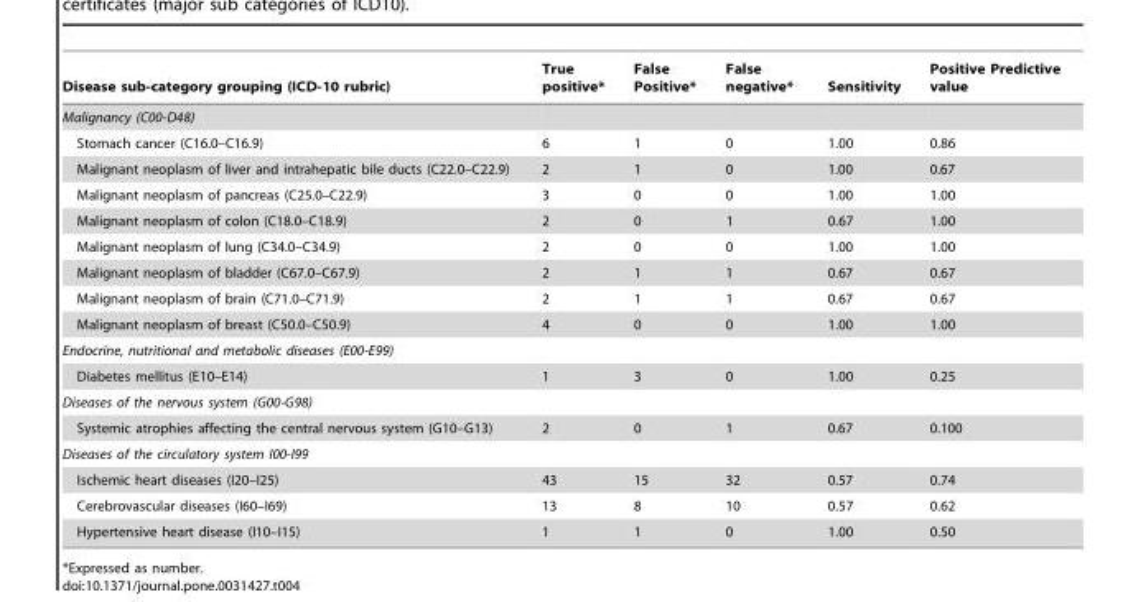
<table><thead><tr><td>Disease sub-category grouping (ICD-10 rubric)</td><td>True positive*</td><td>False Positive*</td><td>False negative*</td><td>Sensitivity</td><td>Positive Predictive value</td></tr></thead><tbody><tr><td colspan="6">Malignancy (C00-D48)</td></tr><tr><td>Stomach cancer (C16.0–C16.9)</td><td>6</td><td>1</td><td>0</td><td>1.00</td><td>0.86</td></tr><tr><td>Malignant neoplasm of liver and intrahepatic bile ducts (C22.0–C22.9)</td><td>2</td><td>1</td><td>0</td><td>1.00</td><td>0.67</td></tr><tr><td>Malignant neoplasm of pancreas (C25.0–C22.9)</td><td>3</td><td>0</td><td>0</td><td>1.00</td><td>1.00</td></tr><tr><td>Malignant neoplasm of colon (C18.0–C18.9)</td><td>2</td><td>0</td><td>1</td><td>0.67</td><td>1.00</td></tr><tr><td>Malignant neoplasm of lung (C34.0–C34.9)</td><td>2</td><td>0</td><td>0</td><td>1.00</td><td>1.00</td></tr><tr><td>Malignant neoplasm of bladder (C67.0–C67.9)</td><td>2</td><td>1</td><td>1</td><td>0.67</td><td>0.67</td></tr><tr><td>Malignant neoplasm of brain (C71.0–C71.9)</td><td>2</td><td>1</td><td>1</td><td>0.67</td><td>0.67</td></tr><tr><td>Malignant neoplasm of breast (C50.0–C50.9)</td><td>4</td><td>0</td><td>0</td><td>1.00</td><td>1.00</td></tr><tr><td colspan="6">Endocrine, nutritional and metabolic diseases (E00-E99)</td></tr><tr><td>Diabetes mellitus (E10–E14)</td><td>1</td><td>3</td><td>0</td><td>1.00</td><td>0.25</td></tr><tr><td colspan="6">Diseases of the nervous system (G00-G98)</td></tr><tr><td>Systemic atrophies affecting the central nervous system (G10–G13)</td><td>2</td><td>0</td><td>1</td><td>0.67</td><td>0.100</td></tr><tr><td colspan="6">Diseases of the circulatory system I00-I99</td></tr><tr><td>Ischemic heart diseases (I20–I25)</td><td>43</td><td>15</td><td>32</td><td>0.57</td><td>0.74</td></tr><tr><td>Cerebrovascular diseases (I60–I69)</td><td>13</td><td>8</td><td>10</td><td>0.57</td><td>0.62</td></tr><tr><td>Hypertensive heart disease (I10–I15)</td><td>1</td><td>1</td><td>0</td><td>1.00</td><td>0.50</td></tr></tbody></table>